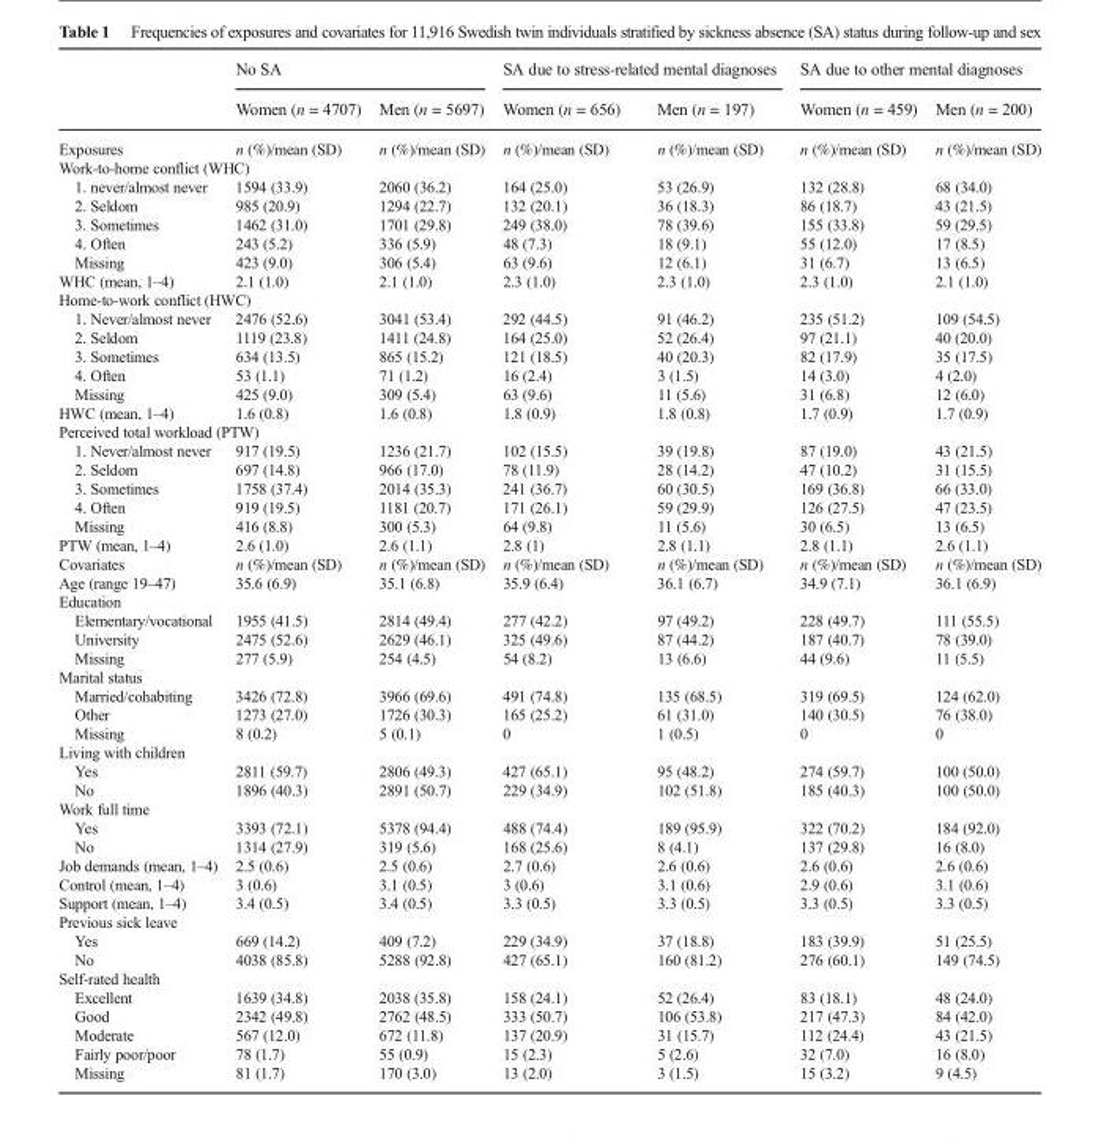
<table><thead><tr><td rowspan="2"></td><td colspan="2">No SA</td><td colspan="2">SA due to stress-related mental diagnoses</td><td colspan="2">SA due to other mental diagnoses</td></tr><tr><td>Women (n = 4707)</td><td>Men (n = 5697)</td><td>Women (n = 656)</td><td>Men (n = 197)</td><td>Women (n = 459)</td><td>Men (n = 200)</td></tr></thead><tbody><tr><td>Exposures</td><td>n (%)/mean (SD)</td><td>n (%)/mean (SD)</td><td>n (%)/mean (SD)</td><td>n (%)/mean (SD)</td><td>n (%)/mean (SD)</td><td>n (%)/mean (SD)</td></tr><tr><td colspan="7">Work-to-home conflict (WHC)</td></tr><tr><td>1. never/almost never</td><td>1594 (33.9)</td><td>2060 (36.2)</td><td>164 (25.0)</td><td>53 (26.9)</td><td>132 (28.8)</td><td>68 (34.0)</td></tr><tr><td>2. Seldom</td><td>985 (20.9)</td><td>1294 (22.7)</td><td>132 (20.1)</td><td>36 (18.3)</td><td>86 (18.7)</td><td>43 (21.5)</td></tr><tr><td>3. Sometimes</td><td>1462 (31.0)</td><td>1701 (29.8)</td><td>249 (38.0)</td><td>78 (39.6)</td><td>155 (33.8)</td><td>59 (29.5)</td></tr><tr><td>4. Often</td><td>243 (5.2)</td><td>336 (5.9)</td><td>48 (7.3)</td><td>18 (9.1)</td><td>55 (12.0)</td><td>17 (8.5)</td></tr><tr><td>Missing</td><td>423 (9.0)</td><td>306 (5.4)</td><td>63 (9.6)</td><td>12 (6.1)</td><td>31 (6.7)</td><td>13 (6.5)</td></tr><tr><td>WHC (mean, 1–4)</td><td>2.1 (1.0)</td><td>2.1 (1.0)</td><td>2.3 (1.0)</td><td>2.3 (1.0)</td><td>2.3 (1.0)</td><td>2.1 (1.0)</td></tr><tr><td colspan="7">Home-to-work conflict (HWC)</td></tr><tr><td>1. Never/almost never</td><td>2476 (52.6)</td><td>3041 (53.4)</td><td>292 (44.5)</td><td>91 (46.2)</td><td>235 (51.2)</td><td>109 (54.5)</td></tr><tr><td>2. Seldom</td><td>1119 (23.8)</td><td>1411 (24.8)</td><td>164 (25.0)</td><td>52 (26.4)</td><td>97 (21.1)</td><td>40 (20.0)</td></tr><tr><td>3. Sometimes</td><td>634 (13.5)</td><td>865 (15.2)</td><td>121 (18.5)</td><td>40 (20.3)</td><td>82 (17.9)</td><td>35 (17.5)</td></tr><tr><td>4. Often</td><td>53 (1.1)</td><td>71 (1.2)</td><td>16 (2.4)</td><td>3 (1.5)</td><td>14 (3.0)</td><td>4 (2.0)</td></tr><tr><td>Missing</td><td>425 (9.0)</td><td>309 (5.4)</td><td>63 (9.6)</td><td>11 (5.6)</td><td>31 (6.8)</td><td>12 (6.0)</td></tr><tr><td>HWC (mean, 1–4)</td><td>1.6 (0.8)</td><td>1.6 (0.8)</td><td>1.8 (0.9)</td><td>1.8 (0.8)</td><td>1.7 (0.9)</td><td>1.7 (0.9)</td></tr><tr><td colspan="7">Perceived total workload (PTW)</td></tr><tr><td>1. Never/almost never</td><td>917 (19.5)</td><td>1236 (21.7)</td><td>102 (15.5)</td><td>39 (19.8)</td><td>87 (19.0)</td><td>43 (21.5)</td></tr><tr><td>2. Seldom</td><td>697 (14.8)</td><td>966 (17.0)</td><td>78 (11.9)</td><td>28 (14.2)</td><td>47 (10.2)</td><td>31 (15.5)</td></tr><tr><td>3. Sometimes</td><td>1758 (37.4)</td><td>2014 (35.3)</td><td>241 (36.7)</td><td>60 (30.5)</td><td>169 (36.8)</td><td>66 (33.0)</td></tr><tr><td>4. Often</td><td>919 (19.5)</td><td>1181 (20.7)</td><td>171 (26.1)</td><td>59 (29.9)</td><td>126 (27.5)</td><td>47 (23.5)</td></tr><tr><td>Missing</td><td>416 (8.8)</td><td>300 (5.3)</td><td>64 (9.8)</td><td>11 (5.6)</td><td>30 (6.5)</td><td>13 (6.5)</td></tr><tr><td>PTW (mean, 1–4)</td><td>2.6 (1.0)</td><td>2.6 (1.1)</td><td>2.8 (1)</td><td>2.8 (1.1)</td><td>2.8 (1.1)</td><td>2.6 (1.1)</td></tr><tr><td>Covariates</td><td>n (%)/mean (SD)</td><td>n (%)/mean (SD)</td><td>n (%)/mean (SD)</td><td>n (%)/mean (SD)</td><td>n (%)/mean (SD)</td><td>n (%)/mean (SD)</td></tr><tr><td>Age (range 19–47)</td><td>35.6 (6.9)</td><td>35.1 (6.8)</td><td>35.9 (6.4)</td><td>36.1 (6.7)</td><td>34.9 (7.1)</td><td>36.1 (6.9)</td></tr><tr><td colspan="7">Education</td></tr><tr><td>Elementary/vocational</td><td>1955 (41.5)</td><td>2814 (49.4)</td><td>277 (42.2)</td><td>97 (49.2)</td><td>228 (49.7)</td><td>111 (55.5)</td></tr><tr><td>University</td><td>2475 (52.6)</td><td>2629 (46.1)</td><td>325 (49.6)</td><td>87 (44.2)</td><td>187 (40.7)</td><td>78 (39.0)</td></tr><tr><td>Missing</td><td>277 (5.9)</td><td>254 (4.5)</td><td>54 (8.2)</td><td>13 (6.6)</td><td>44 (9.6)</td><td>11 (5.5)</td></tr><tr><td colspan="7">Marital status</td></tr><tr><td>Married/cohabiting</td><td>3426 (72.8)</td><td>3966 (69.6)</td><td>491 (74.8)</td><td>135 (68.5)</td><td>319 (69.5)</td><td>124 (62.0)</td></tr><tr><td>Other</td><td>1273 (27.0)</td><td>1726 (30.3)</td><td>165 (25.2)</td><td>61 (31.0)</td><td>140 (30.5)</td><td>76 (38.0)</td></tr><tr><td>Missing</td><td>8 (0.2)</td><td>5 (0.1)</td><td>0</td><td>1 (0.5)</td><td>0</td><td>0</td></tr><tr><td colspan="7">Living with children</td></tr><tr><td>Yes</td><td>2811 (59.7)</td><td>2806 (49.3)</td><td>427 (65.1)</td><td>95 (48.2)</td><td>274 (59.7)</td><td>100 (50.0)</td></tr><tr><td>No</td><td>1896 (40.3)</td><td>2891 (50.7)</td><td>229 (34.9)</td><td>102 (51.8)</td><td>185 (40.3)</td><td>100 (50.0)</td></tr><tr><td colspan="7">Work full time</td></tr><tr><td>Yes</td><td>3393 (72.1)</td><td>5378 (94.4)</td><td>488 (74.4)</td><td>189 (95.9)</td><td>322 (70.2)</td><td>184 (92.0)</td></tr><tr><td>No</td><td>1314 (27.9)</td><td>319 (5.6)</td><td>168 (25.6)</td><td>8 (4.1)</td><td>137 (29.8)</td><td>16 (8.0)</td></tr><tr><td>Job demands (mean, 1–4)</td><td>2.5 (0.6)</td><td>2.5 (0.6)</td><td>2.7 (0.6)</td><td>2.6 (0.6)</td><td>2.6 (0.6)</td><td>2.6 (0.6)</td></tr><tr><td>Control (mean, 1–4)</td><td>3 (0.6)</td><td>3.1 (0.5)</td><td>3 (0.6)</td><td>3.1 (0.6)</td><td>2.9 (0.6)</td><td>3.1 (0.6)</td></tr><tr><td>Support (mean, 1–4)</td><td>3.4 (0.5)</td><td>3.4 (0.5)</td><td>3.3 (0.5)</td><td>3.3 (0.5)</td><td>3.3 (0.5)</td><td>3.3 (0.5)</td></tr><tr><td colspan="7">Previous sick leave</td></tr><tr><td>Yes</td><td>669 (14.2)</td><td>409 (7.2)</td><td>229 (34.9)</td><td>37 (18.8)</td><td>183 (39.9)</td><td>51 (25.5)</td></tr><tr><td>No</td><td>4038 (85.8)</td><td>5288 (92.8)</td><td>427 (65.1)</td><td>160 (81.2)</td><td>276 (60.1)</td><td>149 (74.5)</td></tr><tr><td colspan="7">Self-rated health</td></tr><tr><td>Excellent</td><td>1639 (34.8)</td><td>2038 (35.8)</td><td>158 (24.1)</td><td>52 (26.4)</td><td>83 (18.1)</td><td>48 (24.0)</td></tr><tr><td>Good</td><td>2342 (49.8)</td><td>2762 (48.5)</td><td>333 (50.7)</td><td>106 (53.8)</td><td>217 (47.3)</td><td>84 (42.0)</td></tr><tr><td>Moderate</td><td>567 (12.0)</td><td>672 (11.8)</td><td>137 (20.9)</td><td>31 (15.7)</td><td>112 (24.4)</td><td>43 (21.5)</td></tr><tr><td>Fairly poor/poor</td><td>78 (1.7)</td><td>55 (0.9)</td><td>15 (2.3)</td><td>5 (2.6)</td><td>32 (7.0)</td><td>16 (8.0)</td></tr><tr><td>Missing</td><td>81 (1.7)</td><td>170 (3.0)</td><td>13 (2.0)</td><td>3 (1.5)</td><td>15 (3.2)</td><td>9 (4.5)</td></tr></tbody></table>